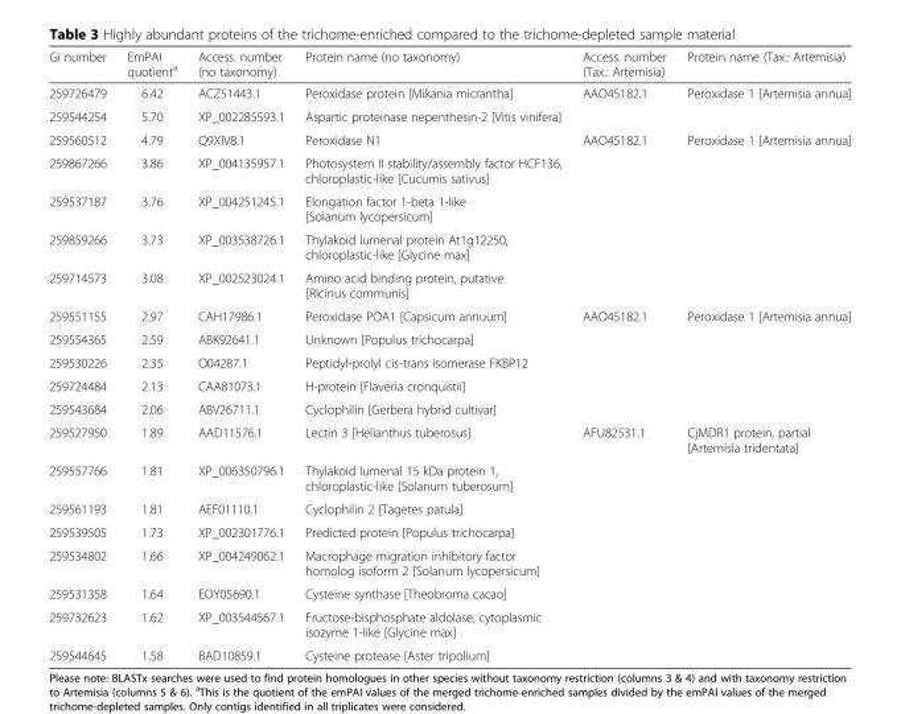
<table><thead><tr><td>Gi number</td><td>EmPAI quotient<sup>a</sup></td><td>Access. number (no taxonomy)</td><td>Protein name (no taxonomy)</td><td>Access. number (Tax.: Artemisia)</td><td>Protein name (Tax.: Artemisia)</td></tr></thead><tbody><tr><td>259726479</td><td>6.42</td><td>ACZ51443.1</td><td>Peroxidase protein [Mikania micrantha]</td><td>AAO45182.1</td><td>Peroxidase 1 [Artemisia annua]</td></tr><tr><td>259544254</td><td>5.70</td><td>XP_002285593.1</td><td>Aspartic proteinase nepenthesin-2 [Vitis vinifera]</td><td></td><td></td></tr><tr><td>259560512</td><td>4.79</td><td>Q9XIV8.1</td><td>Peroxidase N1</td><td>AAO45182.1</td><td>Peroxidase 1 [Artemisia annua]</td></tr><tr><td>259867266</td><td>3.86</td><td>XP_004135957.1</td><td>Photosystem II stability/assembly factor HCF136, chloroplastic-like [Cucumis sativus]</td><td></td><td></td></tr><tr><td>259537187</td><td>3.76</td><td>XP_004251245.1</td><td>Elongation factor 1-beta 1-like [Solanum lycopersicum]</td><td></td><td></td></tr><tr><td>259859266</td><td>3.73</td><td>XP_003538726.1</td><td>Thylakoid lumenal protein At1g12250, chloroplastic-like [Glycine max]</td><td></td><td></td></tr><tr><td>259714573</td><td>3.08</td><td>XP_002523024.1</td><td>Amino acid binding protein, putative [Ricinus communis]</td><td></td><td></td></tr><tr><td>259551155</td><td>2.97</td><td>CAH17986.1</td><td>Peroxidase POA1 [Capsicum annuum]</td><td>AAO45182.1</td><td>Peroxidase 1 [Artemisia annua]</td></tr><tr><td>259554365</td><td>2.59</td><td>ABK92641.1</td><td>Unknown [Populus trichocarpa]</td><td></td><td></td></tr><tr><td>259530226</td><td>2.35</td><td>O04287.1</td><td>Peptidyl-prolyl cis-trans isomerase FKBP12</td><td></td><td></td></tr><tr><td>259724484</td><td>2.13</td><td>CAA81073.1</td><td>H-protein [Flaveria cronquistii]</td><td></td><td></td></tr><tr><td>259543684</td><td>2.06</td><td>ABV26711.1</td><td>Cyclophilin [Gerbera hybrid cultivar]</td><td></td><td></td></tr><tr><td>259527950</td><td>1.89</td><td>AAD11576.1</td><td>Lectin 3 [Helianthus tuberosus]</td><td>AFU82531.1</td><td>CjMDR1 protein, partial [Artemisia tridentata]</td></tr><tr><td>259557766</td><td>1.81</td><td>XP_006350796.1</td><td>Thylakoid lumenal 15 kDa protein 1, chloroplastic-like [Solanum tuberosum]</td><td></td><td></td></tr><tr><td>259561193</td><td>1.81</td><td>AEF01110.1</td><td>Cyclophilin 2 [Tagetes patula]</td><td></td><td></td></tr><tr><td>259539505</td><td>1.73</td><td>XP_002301776.1</td><td>Predicted protein [Populus trichocarpa]</td><td></td><td></td></tr><tr><td>259534802</td><td>1.66</td><td>XP_004249062.1</td><td>Macrophage migration inhibitory factor homolog isoform 2 [Solanum lycopersicum]</td><td></td><td></td></tr><tr><td>259531358</td><td>1.64</td><td>EOY05690.1</td><td>Cysteine synthase [Theobroma cacao]</td><td></td><td></td></tr><tr><td>259732623</td><td>1.62</td><td>XP_003544567.1</td><td>Fructose-bisphosphate aldolase, cytoplasmic isozyme 1-like [Glycine max]</td><td></td><td></td></tr><tr><td>259544645</td><td>1.58</td><td>BAD10859.1</td><td>Cysteine protease [Aster tripolium]</td><td></td><td></td></tr></tbody></table>